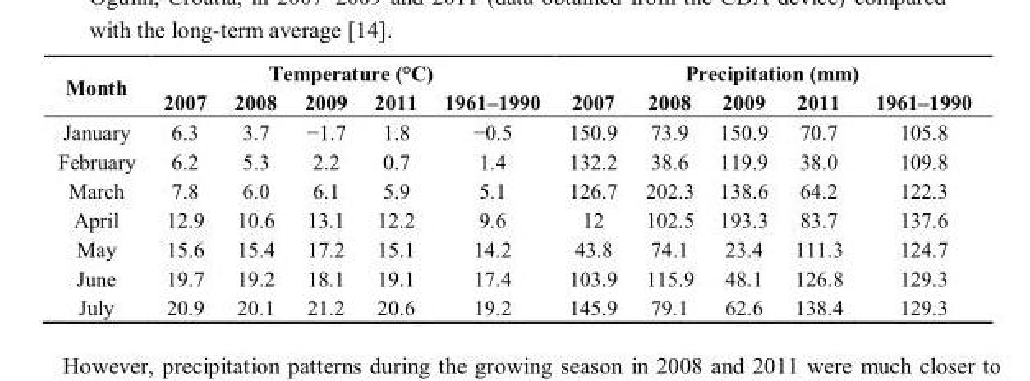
<table><thead><tr><td rowspan="2">Month</td><td colspan="5">Temperature (°C)</td><td colspan="5">Precipitation (mm)</td></tr><tr><td>2007</td><td>2008</td><td>2009</td><td>2011</td><td>1961–1990</td><td>2007</td><td>2008</td><td>2009</td><td>2011</td><td>1961–1990</td></tr></thead><tbody><tr><td>January</td><td>6.3</td><td>3.7</td><td>−1.7</td><td>1.8</td><td>−0.5</td><td>150.9</td><td>73.9</td><td>150.9</td><td>70.7</td><td>105.8</td></tr><tr><td>February</td><td>6.2</td><td>5.3</td><td>2.2</td><td>0.7</td><td>1.4</td><td>132.2</td><td>38.6</td><td>119.9</td><td>38.0</td><td>109.8</td></tr><tr><td>March</td><td>7.8</td><td>6.0</td><td>6.1</td><td>5.9</td><td>5.1</td><td>126.7</td><td>202.3</td><td>138.6</td><td>64.2</td><td>122.3</td></tr><tr><td>April</td><td>12.9</td><td>10.6</td><td>13.1</td><td>12.2</td><td>9.6</td><td>12</td><td>102.5</td><td>193.3</td><td>83.7</td><td>137.6</td></tr><tr><td>May</td><td>15.6</td><td>15.4</td><td>17.2</td><td>15.1</td><td>14.2</td><td>43.8</td><td>74.1</td><td>23.4</td><td>111.3</td><td>124.7</td></tr><tr><td>June</td><td>19.7</td><td>19.2</td><td>18.1</td><td>19.1</td><td>17.4</td><td>103.9</td><td>115.9</td><td>48.1</td><td>126.8</td><td>129.3</td></tr><tr><td>July</td><td>20.9</td><td>20.1</td><td>21.2</td><td>20.6</td><td>19.2</td><td>145.9</td><td>79.1</td><td>62.6</td><td>138.4</td><td>129.3</td></tr></tbody></table>